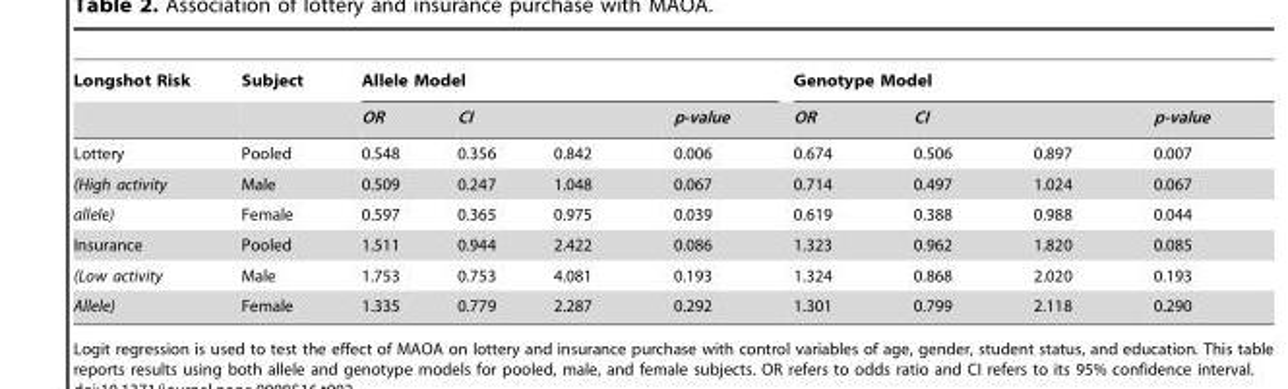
<table><thead><tr><td rowspan="3">Longshot Risk Lottery</td><td rowspan="3">Subject Pooled</td><td colspan="4">Allele Model</td><td colspan="4">Genotype Model</td></tr><tr><td rowspan="2">OR 0.548</td><td colspan="2">CI</td><td rowspan="2">p-value 0.006</td><td rowspan="2">OR 0.674</td><td colspan="2">CI</td><td rowspan="2">p-value 0.007</td></tr><tr><td>0.356</td><td>0.842</td><td>0.506</td><td>0.897</td></tr></thead><tbody><tr><td>(High activity</td><td>Male</td><td>0.509</td><td>0.247</td><td>1.048</td><td>0.067</td><td>0.714</td><td>0.497</td><td>1.024</td><td>0.067</td></tr><tr><td>allele)</td><td>Female</td><td>0.597</td><td>0.365</td><td>0.975</td><td>0.039</td><td>0.619</td><td>0.388</td><td>0.988</td><td>0.044</td></tr><tr><td>Insurance</td><td>Pooled</td><td>1.511</td><td>0.944</td><td>2.422</td><td>0.086</td><td>1.323</td><td>0.962</td><td>1.820</td><td>0.085</td></tr><tr><td>(Low activity</td><td>Male</td><td>1.753</td><td>0.753</td><td>4.081</td><td>0.193</td><td>1.324</td><td>0.868</td><td>2.020</td><td>0.193</td></tr><tr><td>Allele)</td><td>Female</td><td>1.335</td><td>0.779</td><td>2.287</td><td>0.292</td><td>1.301</td><td>0.799</td><td>2.118</td><td>0.290</td></tr></tbody></table>